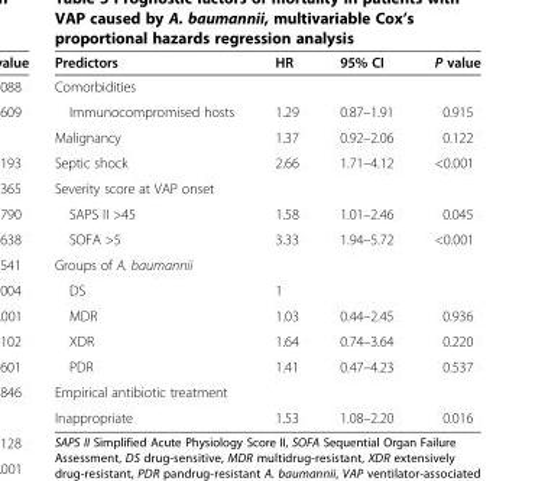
<table><thead><tr><td>Predictors</td><td>HR</td><td>95% CI</td><td>P value</td></tr></thead><tbody><tr><td colspan="4">Comorbidities</td></tr><tr><td>Immunocompromised hosts</td><td>1.29</td><td>0.87–1.91</td><td>0.915</td></tr><tr><td>Malignancy</td><td>1.37</td><td>0.92–2.06</td><td>0.122</td></tr><tr><td>Septic shock</td><td>2.66</td><td>1.71–4.12</td><td>&lt;0.001</td></tr><tr><td colspan="4">Severity score at VAP onset</td></tr><tr><td>SAPS II &gt;45</td><td>1.58</td><td>1.01–2.46</td><td>0.045</td></tr><tr><td>SOFA &gt;5</td><td>3.33</td><td>1.94–5.72</td><td>&lt;0.001</td></tr><tr><td colspan="4">Groups of A. baumannii</td></tr><tr><td>DS</td><td>1</td><td></td><td></td></tr><tr><td>MDR</td><td>1.03</td><td>0.44–2.45</td><td>0.936</td></tr><tr><td>XDR</td><td>1.64</td><td>0.74–3.64</td><td>0.220</td></tr><tr><td>PDR</td><td>1.41</td><td>0.47–4.23</td><td>0.537</td></tr><tr><td colspan="4">Empirical antibiotic treatment</td></tr><tr><td>Inappropriate</td><td>1.53</td><td>1.08–2.20</td><td>0.016</td></tr></tbody></table>